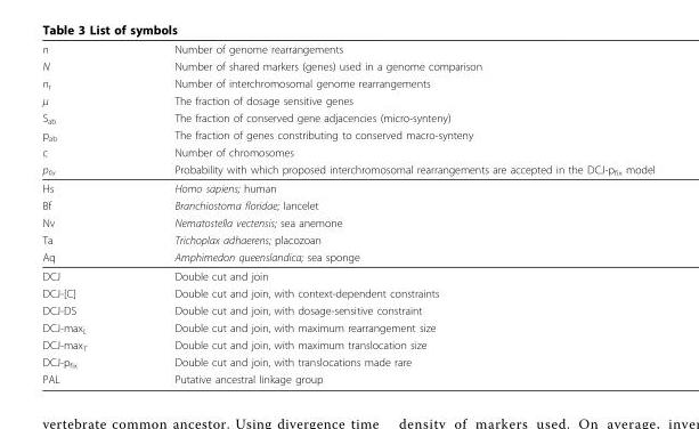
<table><thead><tr><td rowspan="8">n N nt µ Sab pab c pfix</td><td rowspan="8">Number of genome rearrangements Number of shared markers (genes) used in a genome comparison Number of interchromosomal genome rearrangements The fraction of dosage sensitive genes The fraction of conserved gene adjacencies (micro-synteny) The fraction of genes constributing to conserved macro-synteny Number of chromosomes Probability with which proposed interchromosomal rearrangements are accepted in the DCJ-pfix model</td></tr><tr></tr><tr></tr><tr></tr><tr></tr><tr></tr><tr></tr><tr></tr></thead><tbody><tr><td>Hs</td><td>Homo sapiens; human</td></tr><tr><td>Bf</td><td>Branchiostoma floridae; lancelet</td></tr><tr><td>Nv</td><td>Nematostella vectensis; sea anemone</td></tr><tr><td>Ta</td><td>Trichoplax adhaerens; placozoan</td></tr><tr><td>Aq</td><td>Amphimedon queenslandica; sea sponge</td></tr><tr><td>DCJ</td><td>Double cut and join</td></tr><tr><td>DCJ-[C]</td><td>Double cut and join, with context-dependent constraints</td></tr><tr><td>DCJ-DS</td><td>Double cut and join, with dosage-sensitive constraint</td></tr><tr><td>DCJ-max<sub>L</sub></td><td>Double cut and join, with maximum rearrangement size</td></tr><tr><td>DCJ-max<sub>T</sub></td><td>Double cut and join, with maximum translocation size</td></tr><tr><td>DCJ-p<sub>fix</sub></td><td>Double cut and join, with translocations made rare</td></tr><tr><td>PAL</td><td>Putative ancestral linkage group</td></tr></tbody></table>